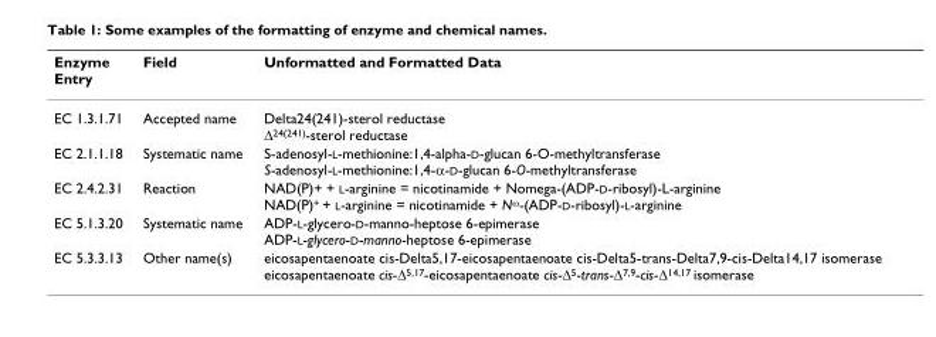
<table><thead><tr><td>Enzyme Entry</td><td>Field</td><td>Unformatted and Formatted Data</td></tr></thead><tbody><tr><td>EC 1.3.1.71</td><td>Accepted name</td><td>Delta24(241)-sterol reductase ∆24(241)-sterol reductase</td></tr><tr><td>EC 2.1.1.18</td><td>Systematic name</td><td>S-adenosyl-L-methionine:1,4-alpha-D-glucan 6-O-methyltransferase S-adenosyl-L-methionine:1,4-α-D-glucan 6-O-methyltransferase</td></tr><tr><td>EC 2.4.2.31</td><td>Reaction</td><td>NAD(P)+ + L-arginine = nicotinamide + Nomega-(ADP-D-ribosyl)-L-arginine NAD(P)<sup>+</sup> + L-arginine = nicotinamide + N<sup>ω</sup>-(ADP-D-ribosyl)-L-arginine</td></tr><tr><td>EC 5.1.3.20</td><td>Systematic name</td><td>ADP-L-glycero-D-manno-heptose 6-epimerase ADP-L-glycero-D-manno-heptose 6-epimerase</td></tr><tr><td>EC 5.3.3.13</td><td>Other name(s)</td><td>eicosapentaenoate cis-Delta5,17-eicosapentaenoate cis-Delta5-trans-Delta7,9-cis-Delta14,17 isomerase eicosapentaenoate cis-∆5,17-eicosapentaenoate cis-∆5-trans-∆7,9-cis-∆14,17 isomerase</td></tr></tbody></table>